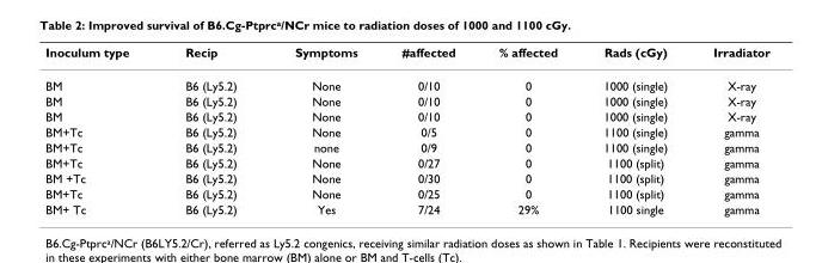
<table><thead><tr><td>Inoculum type</td><td>Recip</td><td>Symptoms</td><td>#affected</td><td>% affected</td><td>Rads (cGy)</td><td>Irradiator</td></tr></thead><tbody><tr><td>BM</td><td>B6 (Ly5.2)</td><td>None</td><td>0/10</td><td>0</td><td>1000 (single)</td><td>X-ray</td></tr><tr><td>BM</td><td>B6 (Ly5.2)</td><td>None</td><td>0/10</td><td>0</td><td>1000 (single)</td><td>X-ray</td></tr><tr><td>BM</td><td>B6 (Ly5.2)</td><td>None</td><td>0/10</td><td>0</td><td>1000 (single)</td><td>X-ray</td></tr><tr><td>BM+Tc</td><td>B6 (Ly5.2)</td><td>None</td><td>0/5</td><td>0</td><td>1100 (single)</td><td>gamma</td></tr><tr><td>BM+Tc</td><td>B6 (Ly5.2)</td><td>none</td><td>0/9</td><td>0</td><td>1100 (single)</td><td>gamma</td></tr><tr><td>BM+Tc</td><td>B6 (Ly5.2)</td><td>None</td><td>0/27</td><td>0</td><td>1100 (split)</td><td>gamma</td></tr><tr><td>BM +Tc</td><td>B6 (Ly5.2)</td><td>None</td><td>0/30</td><td>0</td><td>1100 (split)</td><td>gamma</td></tr><tr><td>BM+Tc</td><td>B6 (Ly5.2)</td><td>None</td><td>0/25</td><td>0</td><td>1100 (split)</td><td>gamma</td></tr><tr><td>BM+ Tc</td><td>B6 (Ly5.2)</td><td>Yes</td><td>7/24</td><td>29%</td><td>1100 single</td><td>gamma</td></tr></tbody></table>